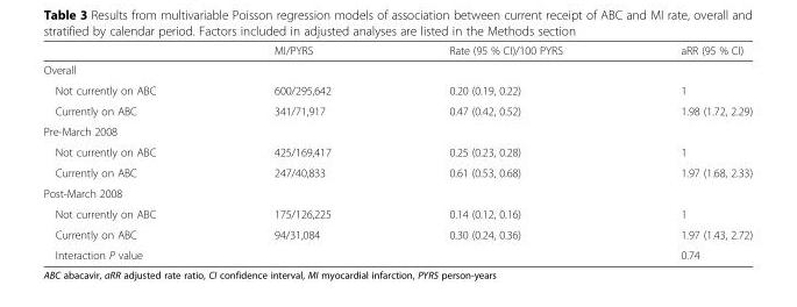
<table><thead><tr><td></td><td>MI/PYRS</td><td>Rate (95 % CI)/100 PYRS</td><td>aRR (95 % CI)</td></tr></thead><tbody><tr><td colspan="4">Overall</td></tr><tr><td>Not currently on ABC</td><td>600/295,642</td><td>0.20 (0.19, 0.22)</td><td>1</td></tr><tr><td>Currently on ABC</td><td>341/71,917</td><td>0.47 (0.42, 0.52)</td><td>1.98 (1.72, 2.29)</td></tr><tr><td colspan="4">Pre-March 2008</td></tr><tr><td>Not currently on ABC</td><td>425/169,417</td><td>0.25 (0.23, 0.28)</td><td>1</td></tr><tr><td>Currently on ABC</td><td>247/40,833</td><td>0.61 (0.53, 0.68)</td><td>1.97 (1.68, 2.33)</td></tr><tr><td colspan="4">Post-March 2008</td></tr><tr><td>Not currently on ABC</td><td>175/126,225</td><td>0.14 (0.12, 0.16)</td><td>1</td></tr><tr><td>Currently on ABC</td><td>94/31,084</td><td>0.30 (0.24, 0.36)</td><td>1.97 (1.43, 2.72)</td></tr><tr><td>Interaction P value</td><td></td><td></td><td>0.74</td></tr></tbody></table>